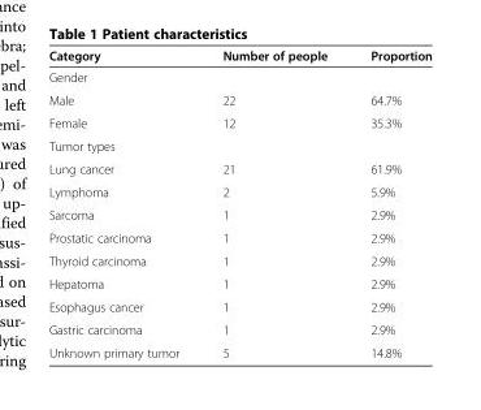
<table><thead><tr><td>Category</td><td>Number of people</td><td>Proportion</td></tr></thead><tbody><tr><td colspan="3">Gender</td></tr><tr><td>Male</td><td>22</td><td>64.7%</td></tr><tr><td>Female</td><td>12</td><td>35.3%</td></tr><tr><td colspan="3">Tumor types</td></tr><tr><td>Lung cancer</td><td>21</td><td>61.9%</td></tr><tr><td>Lymphoma</td><td>2</td><td>5.9%</td></tr><tr><td>Sarcoma</td><td>1</td><td>2.9%</td></tr><tr><td>Prostatic carcinoma</td><td>1</td><td>2.9%</td></tr><tr><td>Thyroid carcinoma</td><td>1</td><td>2.9%</td></tr><tr><td>Hepatoma</td><td>1</td><td>2.9%</td></tr><tr><td>Esophagus cancer</td><td>1</td><td>2.9%</td></tr><tr><td>Gastric carcinoma</td><td>1</td><td>2.9%</td></tr><tr><td>Unknown primary tumor</td><td>5</td><td>14.8%</td></tr></tbody></table>